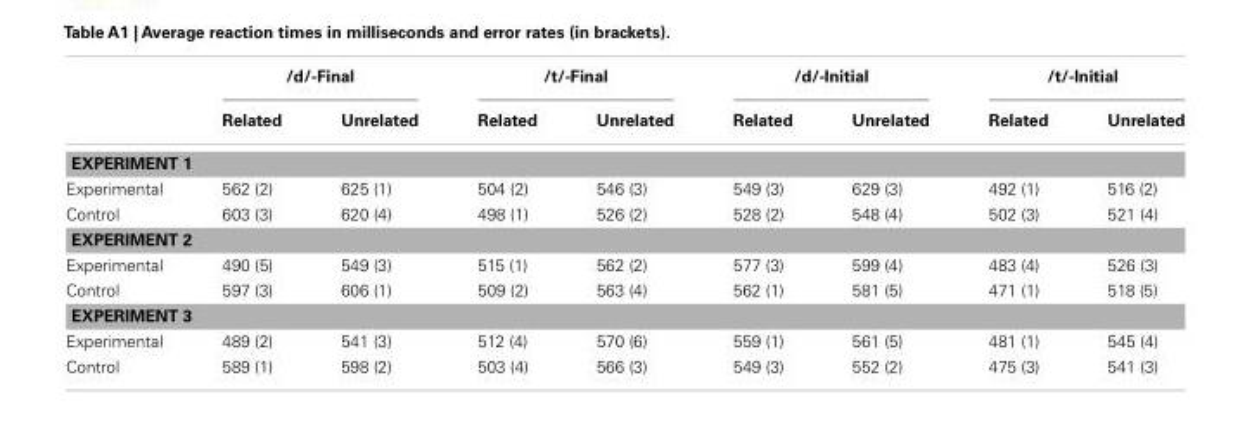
<table><thead><tr><td rowspan="2"></td><td colspan="2">/d/-Final</td><td colspan="2">/t/-Final</td><td colspan="2">/d/-Initial</td><td colspan="2">/t/-Initial</td></tr><tr><td>Related</td><td>Unrelated</td><td>Related</td><td>Unrelated</td><td>Related</td><td>Unrelated</td><td>Related</td><td>Unrelated</td></tr></thead><tbody><tr><td colspan="9">EXPERIMENT 1</td></tr><tr><td>Experimental</td><td>562 (2)</td><td>625 (1)</td><td>504 (2)</td><td>546 (3)</td><td>549 (3)</td><td>629 (3)</td><td>492 (1)</td><td>516 (2)</td></tr><tr><td>Control</td><td>603 (3)</td><td>620 (4)</td><td>498 (1)</td><td>526 (2)</td><td>528 (2)</td><td>548 (4)</td><td>502 (3)</td><td>521 (4)</td></tr><tr><td colspan="9">EXPERIMENT 2</td></tr><tr><td>Experimental</td><td>490 (5)</td><td>549 (3)</td><td>515 (1)</td><td>562 (2)</td><td>577 (3)</td><td>599 (4)</td><td>483 (4)</td><td>526 (3)</td></tr><tr><td>Control</td><td>597 (3)</td><td>606 (1)</td><td>509 (2)</td><td>563 (4)</td><td>562 (1)</td><td>581 (5)</td><td>471 (1)</td><td>518 (5)</td></tr><tr><td colspan="9">EXPERIMENT 3</td></tr><tr><td>Experimental</td><td>489 (2)</td><td>541 (3)</td><td>512 (4)</td><td>570 (6)</td><td>559 (1)</td><td>561 (5)</td><td>481 (1)</td><td>545 (4)</td></tr><tr><td>Control</td><td>589 (1)</td><td>598 (2)</td><td>503 (4)</td><td>566 (3)</td><td>549 (3)</td><td>552 (2)</td><td>475 (3)</td><td>541 (3)</td></tr></tbody></table>